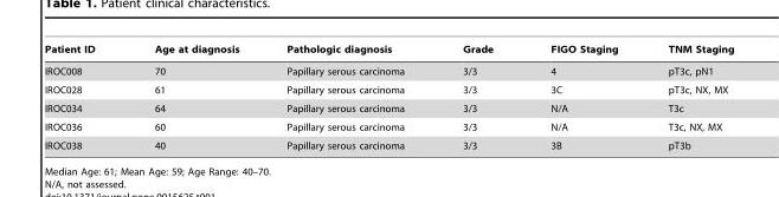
<table><thead><tr><td>Patient ID</td><td>Age at diagnosis</td><td>Pathologic diagnosis</td><td>Grade</td><td>FIGO Staging</td><td>TNM Staging</td></tr></thead><tbody><tr><td>IROC008</td><td>70</td><td>Papillary serous carcinoma</td><td>3/3</td><td>4</td><td>pT3c, pN1</td></tr><tr><td>IROC028</td><td>61</td><td>Papillary serous carcinoma</td><td>3/3</td><td>3C</td><td>pT3c, NX, MX</td></tr><tr><td>IROC034</td><td>64</td><td>Papillary serous carcinoma</td><td>3/3</td><td>N/A</td><td>T3c</td></tr><tr><td>IROC036</td><td>60</td><td>Papillary serous carcinoma</td><td>3/3</td><td>N/A</td><td>T3c, NX, MX</td></tr><tr><td>IROC038</td><td>40</td><td>Papillary serous carcinoma</td><td>3/3</td><td>3B</td><td>pT3b</td></tr></tbody></table>